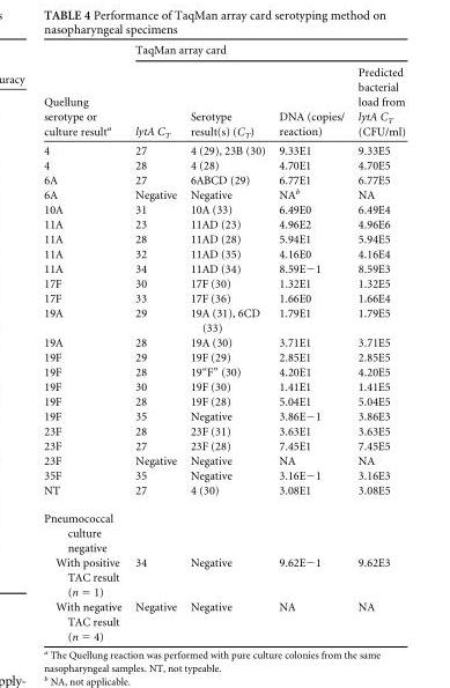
<table><thead><tr><td rowspan="2">Quellung serotype or culture result<sup>a</sup></td><td colspan="4">TaqMan array card</td></tr><tr><td>lytA C<sub>T</sub></td><td>Serotype result(s) (C<sub>T</sub>)</td><td>DNA (copies/ reaction)</td><td>Predicted bacterial load from lytA C<sub>T</sub> (CFU/ml)</td></tr></thead><tbody><tr><td>4</td><td>27</td><td>4 (29), 23B (30)</td><td>9.33E1</td><td>9.33E5</td></tr><tr><td>4</td><td>28</td><td>4 (28)</td><td>4.70E1</td><td>4.70E5</td></tr><tr><td>6A</td><td>27</td><td>6ABCD (29)</td><td>6.77E1</td><td>6.77E5</td></tr><tr><td>6A</td><td>Negative</td><td>Negative</td><td>NA<sup>b</sup></td><td>NA</td></tr><tr><td>10A</td><td>31</td><td>10A (33)</td><td>6.49E0</td><td>6.49E4</td></tr><tr><td>11A</td><td>23</td><td>11AD (23)</td><td>4.96E2</td><td>4.96E6</td></tr><tr><td>11A</td><td>28</td><td>11AD (28)</td><td>5.94E1</td><td>5.94E5</td></tr><tr><td>11A</td><td>32</td><td>11AD (35)</td><td>4.16E0</td><td>4.16E4</td></tr><tr><td>11A</td><td>34</td><td>11AD (34)</td><td>8.59E−1</td><td>8.59E3</td></tr><tr><td>17F</td><td>30</td><td>17F (30)</td><td>1.32E1</td><td>1.32E5</td></tr><tr><td>17F</td><td>33</td><td>17F (36)</td><td>1.66E0</td><td>1.66E4</td></tr><tr><td>19A</td><td>29</td><td>19A (31), 6CD (33)</td><td>1.79E1</td><td>1.79E5</td></tr><tr><td>19A</td><td>28</td><td>19A (30)</td><td>3.71E1</td><td>3.71E5</td></tr><tr><td>19F</td><td>29</td><td>19F (29)</td><td>2.85E1</td><td>2.85E5</td></tr><tr><td>19F</td><td>28</td><td>19“F” (30)</td><td>4.20E1</td><td>4.20E5</td></tr><tr><td>19F</td><td>30</td><td>19F (30)</td><td>1.41E1</td><td>1.41E5</td></tr><tr><td>19F</td><td>28</td><td>19F (28)</td><td>5.04E1</td><td>5.04E5</td></tr><tr><td>19F</td><td>35</td><td>Negative</td><td>3.86E−1</td><td>3.86E3</td></tr><tr><td>23F</td><td>28</td><td>23F (31)</td><td>3.63E1</td><td>3.63E5</td></tr><tr><td>23F</td><td>27</td><td>23F (28)</td><td>7.45E1</td><td>7.45E5</td></tr><tr><td>23F</td><td>Negative</td><td>Negative</td><td>NA</td><td>NA</td></tr><tr><td>35F</td><td>35</td><td>Negative</td><td>3.16E−1</td><td>3.16E3</td></tr><tr><td>NT</td><td>27</td><td>4 (30)</td><td>3.08E1</td><td>3.08E5</td></tr><tr><td colspan="5">Pneumococcal culture negative</td></tr><tr><td>With positive TAC result (n = 1)</td><td>34</td><td>Negative</td><td>9.62E−1</td><td>9.62E3</td></tr><tr><td>With negative TAC result (n = 4)</td><td>Negative</td><td>Negative</td><td>NA</td><td>NA</td></tr></tbody></table>